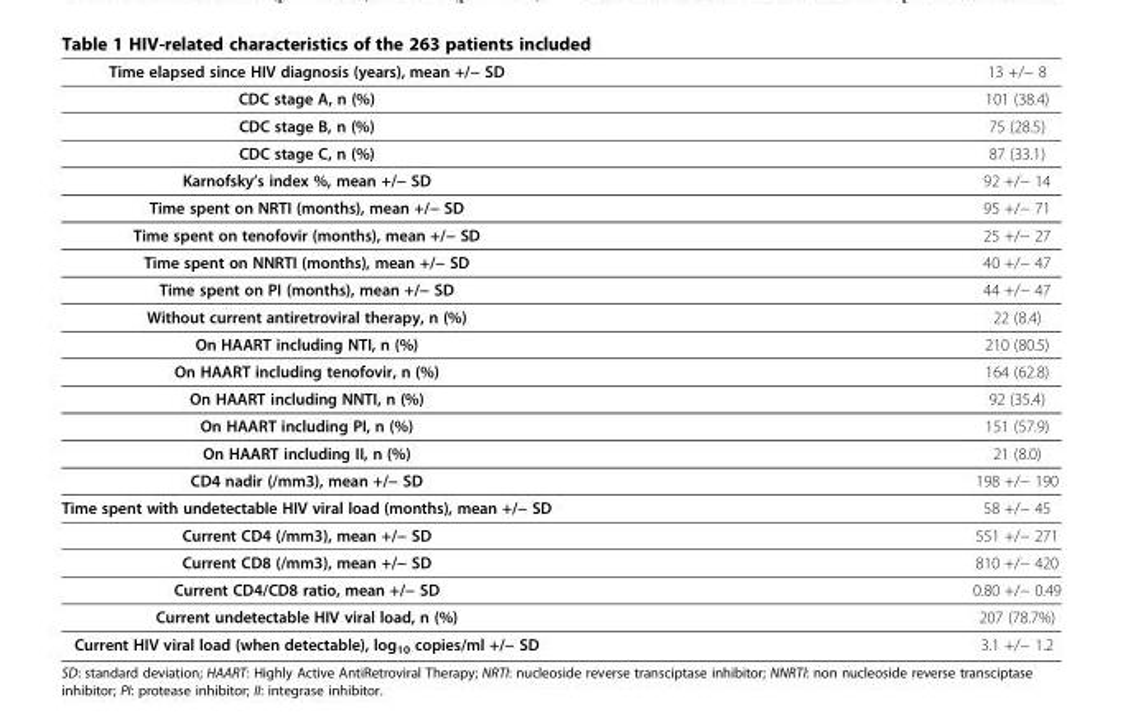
<table><tbody><tr><td>Time elapsed since HIV diagnosis (years), mean +/− SD</td><td>13 +/− 8</td></tr><tr><td>CDC stage A, n (%)</td><td>101 (38.4)</td></tr><tr><td>CDC stage B, n (%)</td><td>75 (28.5)</td></tr><tr><td>CDC stage C, n (%)</td><td>87 (33.1)</td></tr><tr><td>Karnofsky’s index %, mean +/− SD</td><td>92 +/− 14</td></tr><tr><td>Time spent on NRTI (months), mean +/− SD</td><td>95 +/− 71</td></tr><tr><td>Time spent on tenofovir (months), mean +/− SD</td><td>25 +/− 27</td></tr><tr><td>Time spent on NNRTI (months), mean +/− SD</td><td>40 +/− 47</td></tr><tr><td>Time spent on PI (months), mean +/− SD</td><td>44 +/− 47</td></tr><tr><td>Without current antiretroviral therapy, n (%)</td><td>22 (8.4)</td></tr><tr><td>On HAART including NTI, n (%)</td><td>210 (80.5)</td></tr><tr><td>On HAART including tenofovir, n (%)</td><td>164 (62.8)</td></tr><tr><td>On HAART including NNTI, n (%)</td><td>92 (35.4)</td></tr><tr><td>On HAART including PI, n (%)</td><td>151 (57.9)</td></tr><tr><td>On HAART including II, n (%)</td><td>21 (8.0)</td></tr><tr><td>CD4 nadir (/mm3), mean +/− SD</td><td>198 +/− 190</td></tr><tr><td>Time spent with undetectable HIV viral load (months), mean +/− SD</td><td>58 +/− 45</td></tr><tr><td>Current CD4 (/mm3), mean +/− SD</td><td>551 +/− 271</td></tr><tr><td>Current CD8 (/mm3), mean +/− SD</td><td>810 +/− 420</td></tr><tr><td>Current CD4/CD8 ratio, mean +/− SD</td><td>0.80 +/− 0.49</td></tr><tr><td>Current undetectable HIV viral load, n (%)</td><td>207 (78.7%)</td></tr><tr><td>Current HIV viral load (when detectable), log<sub>10</sub> copies/ml +/− SD</td><td>3.1 +/− 1.2</td></tr></tbody></table>